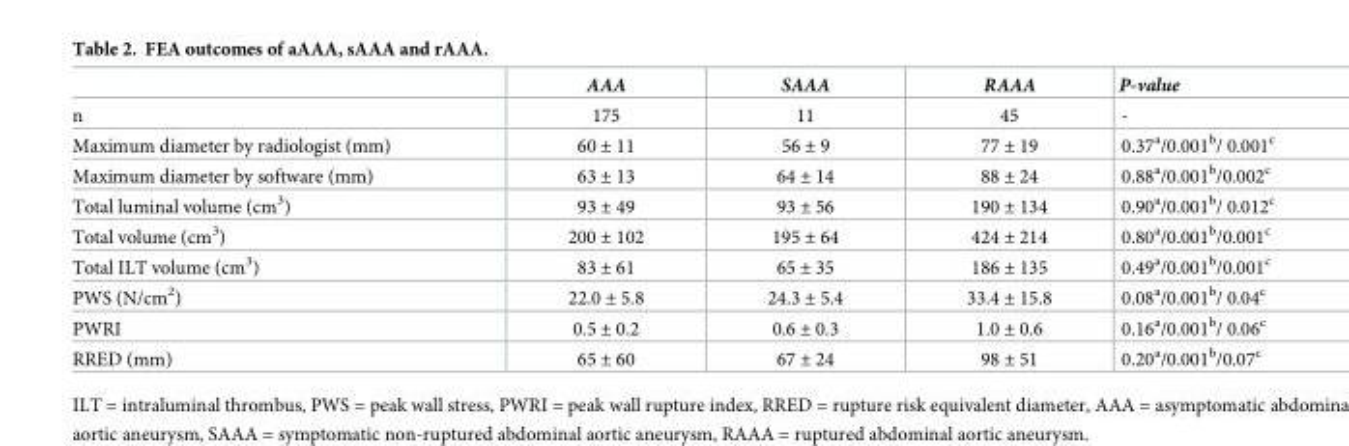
<table><thead><tr><td></td><td>AAA</td><td>SAAA</td><td>RAAA</td><td>P-value</td></tr></thead><tbody><tr><td>n</td><td>175</td><td>11</td><td>45</td><td>-</td></tr><tr><td>Maximum diameter by radiologist (mm)</td><td>60 ± 11</td><td>56 ± 9</td><td>77 ± 19</td><td>0.37<sup>a</sup>/0.001<sup>b</sup>/ 0.001<sup>c</sup></td></tr><tr><td>Maximum diameter by software (mm)</td><td>63 ± 13</td><td>64 ± 14</td><td>88 ± 24</td><td>0.88<sup>a</sup>/0.001<sup>b</sup>/0.002<sup>c</sup></td></tr><tr><td>Total luminal volume (cm<sup>3</sup>)</td><td>93 ± 49</td><td>93 ± 56</td><td>190 ± 134</td><td>0.90<sup>a</sup>/0.001<sup>b</sup>/ 0.012<sup>c</sup></td></tr><tr><td>Total volume (cm<sup>3</sup>)</td><td>200 ± 102</td><td>195 ± 64</td><td>424 ± 214</td><td>0.80<sup>a</sup>/0.001<sup>b</sup>/0.001<sup>c</sup></td></tr><tr><td>Total ILT volume (cm<sup>3</sup>)</td><td>83 ± 61</td><td>65 ± 35</td><td>186 ± 135</td><td>0.49<sup>a</sup>/0.001<sup>b</sup>/0.001<sup>c</sup></td></tr><tr><td>PWS (N/cm<sup>2</sup>)</td><td>22.0 ± 5.8</td><td>24.3 ± 5.4</td><td>33.4 ± 15.8</td><td>0.08<sup>a</sup>/0.001<sup>b</sup>/ 0.04<sup>c</sup></td></tr><tr><td>PWRI</td><td>0.5 ± 0.2</td><td>0.6 ± 0.3</td><td>1.0 ± 0.6</td><td>0.16<sup>a</sup>/0.001<sup>b</sup>/ 0.06<sup>c</sup></td></tr><tr><td>RRED (mm)</td><td>65 ± 60</td><td>67 ± 24</td><td>98 ± 51</td><td>0.20<sup>a</sup>/0.001<sup>b</sup>/0.07<sup>c</sup></td></tr></tbody></table>